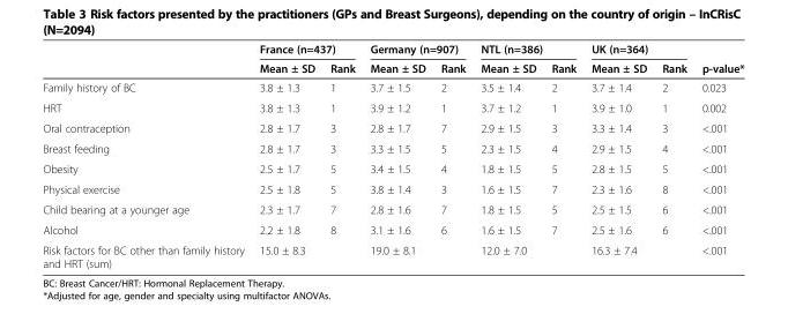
<table><thead><tr><td rowspan="2"></td><td colspan="2">France (n=437)</td><td colspan="2">Germany (n=907)</td><td colspan="2">NTL (n=386)</td><td colspan="2">UK (n=364)</td><td rowspan="2">p-value*</td></tr><tr><td>Mean ± SD</td><td>Rank</td><td>Mean ± SD</td><td>Rank</td><td>Mean ± SD</td><td>Rank</td><td>Mean ± SD</td><td>Rank</td></tr></thead><tbody><tr><td>Family history of BC</td><td>3.8 ± 1.3</td><td>1</td><td>3.7 ± 1.5</td><td>2</td><td>3.5 ± 1.4</td><td>2</td><td>3.7 ± 1.4</td><td>2</td><td>0.023</td></tr><tr><td>HRT</td><td>3.8 ± 1.3</td><td>1</td><td>3.9 ± 1.2</td><td>1</td><td>3.7 ± 1.2</td><td>1</td><td>3.9 ± 1.0</td><td>1</td><td>0.002</td></tr><tr><td>Oral contraception</td><td>2.8 ± 1.7</td><td>3</td><td>2.8 ± 1.7</td><td>7</td><td>2.9 ± 1.5</td><td>3</td><td>3.3 ± 1.4</td><td>3</td><td>&lt;.001</td></tr><tr><td>Breast feeding</td><td>2.8 ± 1.7</td><td>3</td><td>3.3 ± 1.5</td><td>5</td><td>2.3 ± 1.5</td><td>4</td><td>2.9 ± 1.5</td><td>4</td><td>&lt;.001</td></tr><tr><td>Obesity</td><td>2.5 ± 1.7</td><td>5</td><td>3.4 ± 1.5</td><td>4</td><td>1.8 ± 1.5</td><td>5</td><td>2.8 ± 1.5</td><td>5</td><td>&lt;.001</td></tr><tr><td>Physical exercise</td><td>2.5 ± 1.8</td><td>5</td><td>3.8 ± 1.4</td><td>3</td><td>1.6 ± 1.5</td><td>7</td><td>2.3 ± 1.6</td><td>8</td><td>&lt;.001</td></tr><tr><td>Child bearing at a younger age</td><td>2.3 ± 1.7</td><td>7</td><td>2.8 ± 1.6</td><td>7</td><td>1.8 ± 1.5</td><td>5</td><td>2.5 ± 1.5</td><td>6</td><td>&lt;.001</td></tr><tr><td>Alcohol</td><td>2.2 ± 1.8</td><td>8</td><td>3.1 ± 1.6</td><td>6</td><td>1.6 ± 1.5</td><td>7</td><td>2.5 ± 1.6</td><td>6</td><td>&lt;.001</td></tr><tr><td>Risk factors for BC other than family history and HRT (sum)</td><td>15.0 ± 8.3</td><td></td><td>19.0 ± 8.1</td><td></td><td>12.0 ± 7.0</td><td></td><td>16.3 ± 7.4</td><td></td><td>&lt;.001</td></tr></tbody></table>